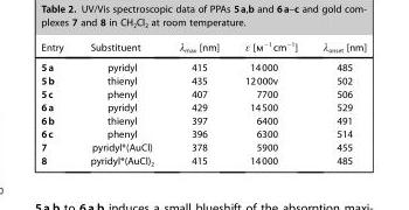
<table><thead><tr><td>Entry</td><td>Substituent</td><td>λ<sub>max</sub> [nm]</td><td>ε [m<sup>−1</sup>cm<sup>−1</sup>]</td><td>λ<sub>onset</sub> [nm]</td></tr></thead><tbody><tr><td>5a</td><td>pyridyl</td><td>415</td><td>14000</td><td>485</td></tr><tr><td>5b</td><td>thienyl</td><td>435</td><td>12000v</td><td>502</td></tr><tr><td>5c</td><td>phenyl</td><td>407</td><td>7700</td><td>506</td></tr><tr><td>6a</td><td>pyridyl</td><td>429</td><td>14500</td><td>529</td></tr><tr><td>6b</td><td>thienyl</td><td>397</td><td>6400</td><td>491</td></tr><tr><td>6c</td><td>phenyl</td><td>396</td><td>6300</td><td>514</td></tr><tr><td>7</td><td>pyridyl*(AuCl)</td><td>378</td><td>5900</td><td>455</td></tr><tr><td>8</td><td>pyridyl*(AuCl)<sub>2</sub></td><td>415</td><td>14000</td><td>485</td></tr></tbody></table>